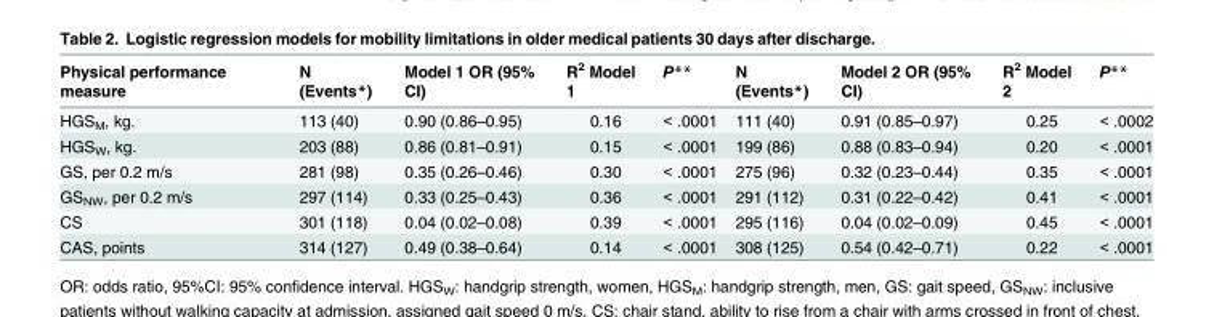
<table><thead><tr><td>Physical performance measure</td><td>N (Events*)</td><td>Model 1 OR (95% CI)</td><td>R<sup>2</sup> Model 1</td><td>P**</td><td>N (Events*)</td><td>Model 2 OR (95% CI)</td><td>R<sup>2</sup> Model 2</td><td>P**</td></tr></thead><tbody><tr><td>HGS<sub>M</sub>, kg.</td><td>113 (40)</td><td>0.90 (0.86–0.95)</td><td>0.16</td><td>&lt; .0001</td><td>111 (40)</td><td>0.91 (0.85–0.97)</td><td>0.25</td><td>&lt; .0002</td></tr><tr><td>HGS<sub>W</sub>, kg.</td><td>203 (88)</td><td>0.86 (0.81–0.91)</td><td>0.15</td><td>&lt; .0001</td><td>199 (86)</td><td>0.88 (0.83–0.94)</td><td>0.20</td><td>&lt; .0001</td></tr><tr><td>GS, per 0.2 m/s</td><td>281 (98)</td><td>0.35 (0.26–0.46)</td><td>0.30</td><td>&lt; .0001</td><td>275 (96)</td><td>0.32 (0.23–0.44)</td><td>0.35</td><td>&lt; .0001</td></tr><tr><td>GS<sub>NW</sub>, per 0.2 m/s</td><td>297 (114)</td><td>0.33 (0.25–0.43)</td><td>0.36</td><td>&lt; .0001</td><td>291 (112)</td><td>0.31 (0.22–0.42)</td><td>0.41</td><td>&lt; .0001</td></tr><tr><td>CS</td><td>301 (118)</td><td>0.04 (0.02–0.08)</td><td>0.39</td><td>&lt; .0001</td><td>295 (116)</td><td>0.04 (0.02–0.09)</td><td>0.45</td><td>&lt; .0001</td></tr><tr><td>CAS, points</td><td>314 (127)</td><td>0.49 (0.38–0.64)</td><td>0.14</td><td>&lt; .0001</td><td>308 (125)</td><td>0.54 (0.42–0.71)</td><td>0.22</td><td>&lt; .0001</td></tr></tbody></table>